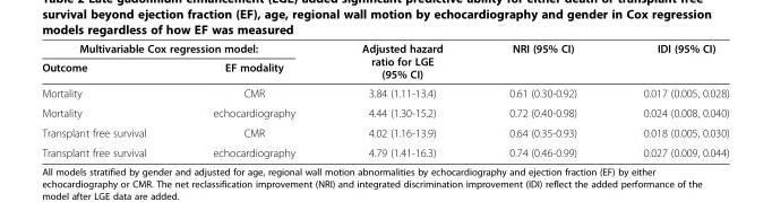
<table><thead><tr><td colspan="2">Multivariable Cox regression model:</td><td rowspan="2">Adjusted hazard ratio for LGE (95% CI)</td><td rowspan="2">NRI (95% CI)</td><td rowspan="2">IDI (95% CI)</td></tr><tr><td>Outcome</td><td>EF modality</td></tr></thead><tbody><tr><td>Mortality</td><td>CMR</td><td>3.84 (1.11-13.4)</td><td>0.61 (0.30-0.92)</td><td>0.017 (0.005, 0.028)</td></tr><tr><td>Mortality</td><td>echocardiography</td><td>4.44 (1.30-15.2)</td><td>0.72 (0.40-0.98)</td><td>0.024 (0.008, 0.040)</td></tr><tr><td>Transplant free survival</td><td>CMR</td><td>4.02 (1.16-13.9)</td><td>0.64 (0.35-0.93)</td><td>0.018 (0.005, 0.030)</td></tr><tr><td>Transplant free survival</td><td>echocardiography</td><td>4.79 (1.41-16.3)</td><td>0.74 (0.46-0.99)</td><td>0.027 (0.009, 0.044)</td></tr></tbody></table>